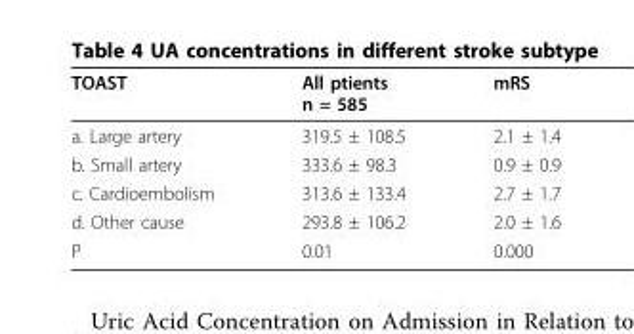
<table><thead><tr><td>TOAST</td><td>All ptients n = 585</td><td>mRS</td></tr></thead><tbody><tr><td>a. Large artery</td><td>319.5 ± 108.5</td><td>2.1 ± 1.4</td></tr><tr><td>b. Small artery</td><td>333.6 ± 98.3</td><td>0.9 ± 0.9</td></tr><tr><td>c. Cardioembolism</td><td>313.6 ± 133.4</td><td>2.7 ± 1.7</td></tr><tr><td>d. Other cause</td><td>293.8 ± 106.2</td><td>2.0 ± 1.6</td></tr><tr><td>P</td><td>0.01</td><td>0.000</td></tr></tbody></table>